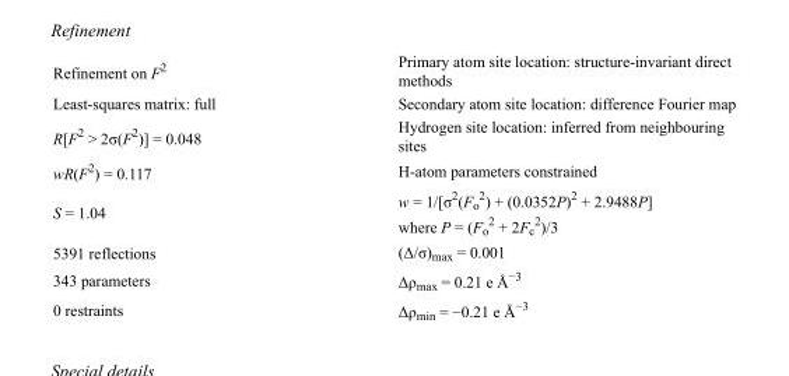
<table><tbody><tr><td>Refinement on F<sup>2</sup></td><td>Primary atom site location: structure-invariant direct methods</td></tr><tr><td>Least-squares matrix: full</td><td>Secondary atom site location: difference Fourier map</td></tr><tr><td>R[F<sup>2</sup> &gt; 2σ(F<sup>2</sup>)] = 0.048</td><td>Hydrogen site location: inferred from neighbouring sites</td></tr><tr><td>wR(F<sup>2</sup>) = 0.117</td><td>H-atom parameters constrained</td></tr><tr><td>S = 1.04</td><td>w = 1/[σ<sup>2</sup>(F<sub>o</sub> <sup>2</sup>) + (0.0352P)<sup>2</sup> + 2.9488P] where P = (F<sub>o</sub> <sup>2</sup> + 2F<sub>c</sub> <sup>2</sup>)/3</td></tr><tr><td>5391 reflections</td><td>(Δ/σ)<sub>max</sub> = 0.001</td></tr><tr><td>343 parameters</td><td>Δρ<sub>max</sub> = 0.21 e Å<sup>−3</sup></td></tr><tr><td>0 restraints</td><td>Δρ<sub>min</sub> = −0.21 e Å<sup>−3</sup></td></tr></tbody></table>